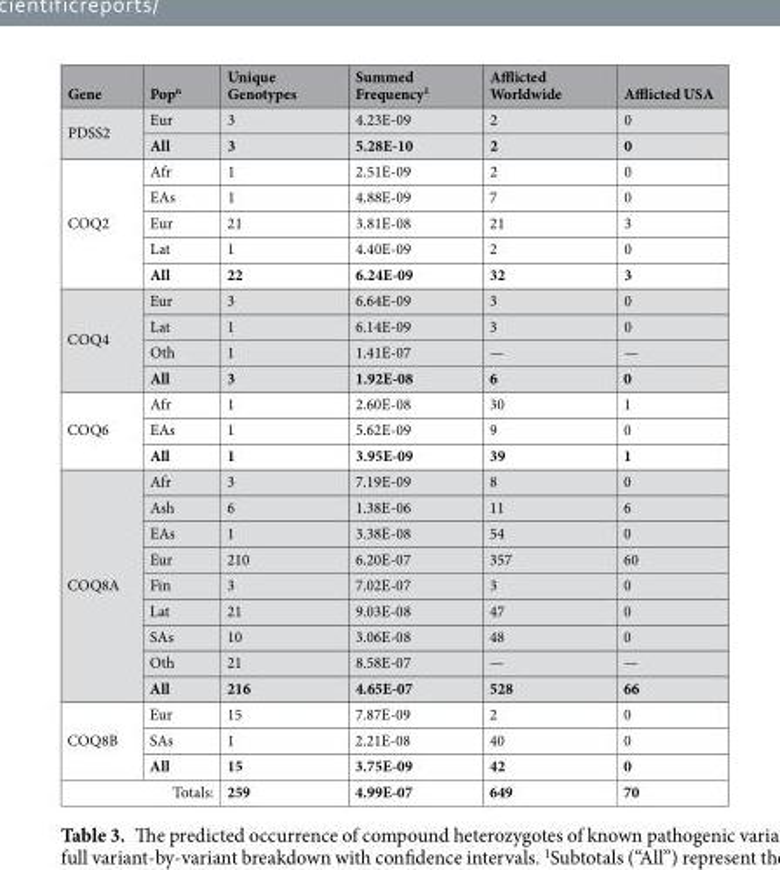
<table><thead><tr><td>Gene</td><td>Pop<sup>n</sup></td><td>Unique Genotypes</td><td>Summed Frequency<sup>1</sup></td><td>Afflicted Worldwide</td><td>Afflicted USA</td></tr></thead><tbody><tr><td rowspan="2">PDSS2</td><td>Eur</td><td>3</td><td>4.23E-09</td><td>2</td><td>0</td></tr><tr><td>All</td><td>3</td><td>5.28E-10</td><td>2</td><td>0</td></tr><tr><td rowspan="5">COQ2</td><td>Afr</td><td>1</td><td>2.51E-09</td><td>2</td><td>0</td></tr><tr><td>EAs</td><td>1</td><td>4.88E-09</td><td>7</td><td>0</td></tr><tr><td>Eur</td><td>21</td><td>3.81E-08</td><td>21</td><td>3</td></tr><tr><td>Lat</td><td>1</td><td>4.40E-09</td><td>2</td><td>0</td></tr><tr><td>All</td><td>22</td><td>6.24E-09</td><td>32</td><td>3</td></tr><tr><td rowspan="4">COQ4</td><td>Eur</td><td>3</td><td>6.64E-09</td><td>3</td><td>0</td></tr><tr><td>Lat</td><td>1</td><td>6.14E-09</td><td>3</td><td>0</td></tr><tr><td>Oth</td><td>1</td><td>1.41E-07</td><td>—</td><td>—</td></tr><tr><td>All</td><td>3</td><td>1.92E-08</td><td>6</td><td>0</td></tr><tr><td rowspan="3">COQ6</td><td>Afr</td><td>1</td><td>2.60E-08</td><td>30</td><td>1</td></tr><tr><td>EAs</td><td>1</td><td>5.62E-09</td><td>9</td><td>0</td></tr><tr><td>All</td><td>1</td><td>3.95E-09</td><td>39</td><td>1</td></tr><tr><td rowspan="9">COQ8A</td><td>Afr</td><td>3</td><td>7.19E-09</td><td>8</td><td>0</td></tr><tr><td>Ash</td><td>6</td><td>1.38E-06</td><td>11</td><td>6</td></tr><tr><td>EAs</td><td>1</td><td>3.38E-08</td><td>54</td><td>0</td></tr><tr><td>Eur</td><td>210</td><td>6.20E-07</td><td>357</td><td>60</td></tr><tr><td>Fin</td><td>3</td><td>7.02E-07</td><td>3</td><td>0</td></tr><tr><td>Lat</td><td>21</td><td>9.03E-08</td><td>47</td><td>0</td></tr><tr><td>SAs</td><td>10</td><td>3.06E-08</td><td>48</td><td>0</td></tr><tr><td>Oth</td><td>21</td><td>8.58E-07</td><td>—</td><td>—</td></tr><tr><td>All</td><td>216</td><td>4.65E-07</td><td>528</td><td>66</td></tr><tr><td rowspan="3">COQ8B</td><td>Eur</td><td>15</td><td>7.87E-09</td><td>2</td><td>0</td></tr><tr><td>SAs</td><td>1</td><td>2.21E-08</td><td>40</td><td>0</td></tr><tr><td>All</td><td>15</td><td>3.75E-09</td><td>42</td><td>0</td></tr><tr><td colspan="2">Totals:</td><td>259</td><td>4.99E-07</td><td>649</td><td>70</td></tr></tbody></table>